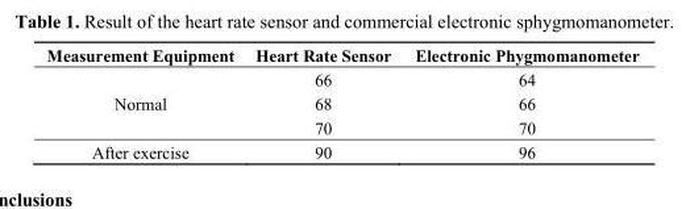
<table><thead><tr><td>Measurement Equipment</td><td>Heart Rate Sensor</td><td>Electronic Phygmomanometer</td></tr></thead><tbody><tr><td rowspan="3">Normal</td><td>66</td><td>64</td></tr><tr><td>68</td><td>66</td></tr><tr><td>70</td><td>70</td></tr><tr><td>After exercise</td><td>90</td><td>96</td></tr></tbody></table>